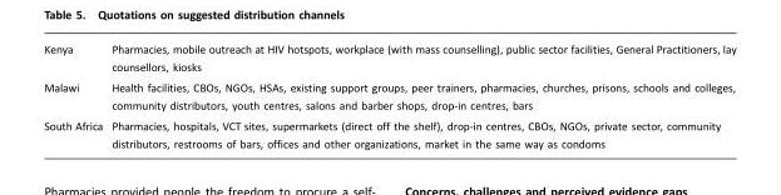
<table><tbody><tr><td>Kenya</td><td>Pharmacies, mobile outreach at HIV hotspots, workplace (with mass counselling), public sector facilities, General Practitioners, lay counsellors, kiosks</td></tr><tr><td>Malawi</td><td>Health facilities, CBOs, NGOs, HSAs, existing support groups, peer trainers, pharmacies, churches, prisons, schools and colleges, community distributors, youth centres, salons and barber shops, drop-in centres, bars</td></tr><tr><td>South Africa</td><td>Pharmacies, hospitals, VCT sites, supermarkets (direct off the shelf), drop-in centres, CBOs, NGOs, private sector, community distributors, restrooms of bars, offices and other organizations, market in the same way as condoms</td></tr></tbody></table>